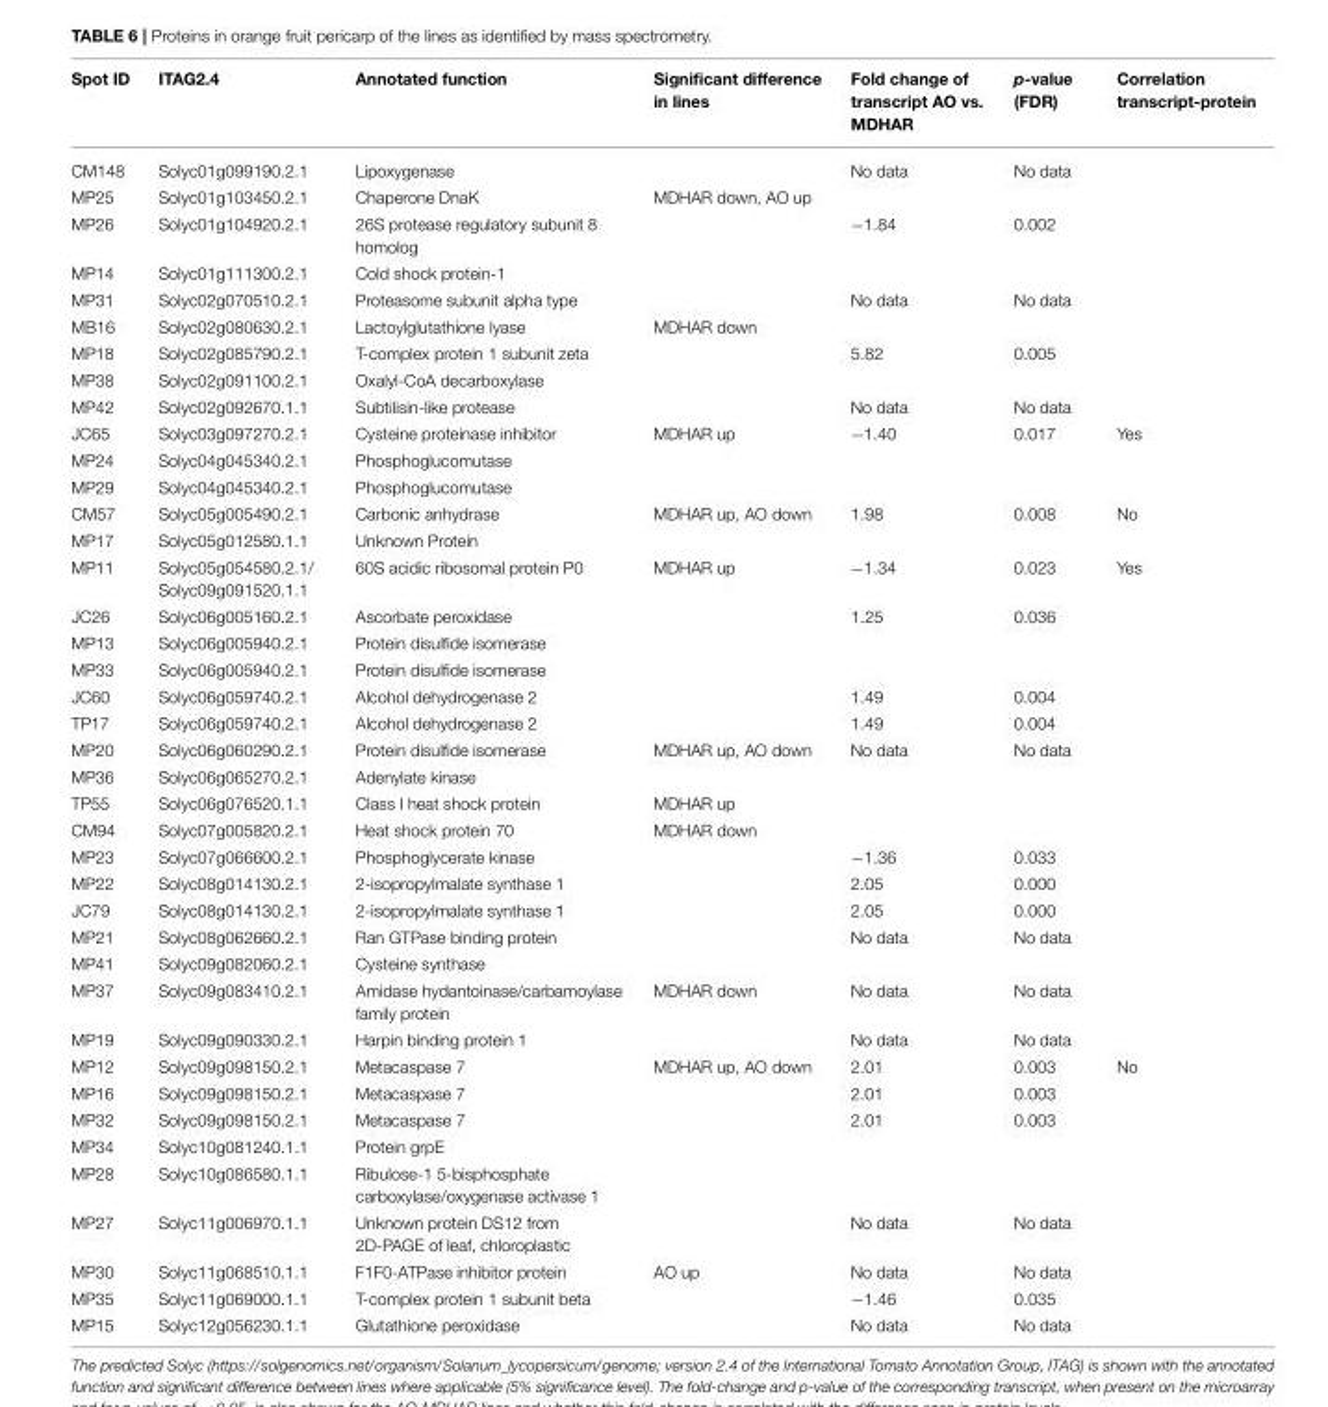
<table><thead><tr><td>Spot ID</td><td>ITAG2.4</td><td>Annotated function</td><td>Significant difference in lines</td><td>Fold change of transcript AO vs. MDHAR</td><td>p-value (FDR)</td><td>Correlation transcript-protein</td></tr></thead><tbody><tr><td>CM148</td><td>Solyc01g099190.2.1</td><td>Lipoxygenase</td><td></td><td>No data</td><td>No data</td><td></td></tr><tr><td>MP25</td><td>Solyc01g103450.2.1</td><td>Chaperone DnaK</td><td>MDHAR down, AO up</td><td></td><td></td><td></td></tr><tr><td>MP26</td><td>Solyc01g104920.2.1</td><td>26S protease regulatory subunit 8 homolog</td><td></td><td>−1.84</td><td>0.002</td><td></td></tr><tr><td>MP14</td><td>Solyc01g111300.2.1</td><td>Cold shock protein-1</td><td></td><td></td><td></td><td></td></tr><tr><td>MP31</td><td>Solyc02g070510.2.1</td><td>Proteasome subunit alpha type</td><td></td><td>No data</td><td>No data</td><td></td></tr><tr><td>MB16</td><td>Solyc02g080630.2.1</td><td>Lactoylglutathione lyase</td><td>MDHAR down</td><td></td><td></td><td></td></tr><tr><td>MP18</td><td>Solyc02g085790.2.1</td><td>T-complex protein 1 subunit zeta</td><td></td><td>5.82</td><td>0.005</td><td></td></tr><tr><td>MP38</td><td>Solyc02g091100.2.1</td><td>Oxalyl-CoA decarboxylase</td><td></td><td></td><td></td><td></td></tr><tr><td>MP42</td><td>Solyc02g092670.1.1</td><td>Subtilisin-like protease</td><td></td><td>No data</td><td>No data</td><td></td></tr><tr><td>JC65</td><td>Solyc03g097270.2.1</td><td>Cysteine proteinase inhibitor</td><td>MDHAR up</td><td>−1.40</td><td>0.017</td><td>Yes</td></tr><tr><td>MP24</td><td>Solyc04g045340.2.1</td><td>Phosphoglucomutase</td><td></td><td></td><td></td><td></td></tr><tr><td>MP29</td><td>Solyc04g045340.2.1</td><td>Phosphoglucomutase</td><td></td><td></td><td></td><td></td></tr><tr><td>CM57</td><td>Solyc05g005490.2.1</td><td>Carbonic anhydrase</td><td>MDHAR up, AO down</td><td>1.98</td><td>0.008</td><td>No</td></tr><tr><td>MP17</td><td>Solyc05g012580.1.1</td><td>Unknown Protein</td><td></td><td></td><td></td><td></td></tr><tr><td>MP11</td><td>Solyc05g054580.2.1/ Solyc09g091520.1.1</td><td>60S acidic ribosomal protein P0</td><td>MDHAR up</td><td>−1.34</td><td>0.023</td><td>Yes</td></tr><tr><td>JC26</td><td>Solyc06g005160.2.1</td><td>Ascorbate peroxidase</td><td></td><td>1.25</td><td>0.036</td><td></td></tr><tr><td>MP13</td><td>Solyc06g005940.2.1</td><td>Protein disulfide isomerase</td><td></td><td></td><td></td><td></td></tr><tr><td>MP33</td><td>Solyc06g005940.2.1</td><td>Protein disulfide isomerase</td><td></td><td></td><td></td><td></td></tr><tr><td>JC60</td><td>Solyc06g059740.2.1</td><td>Alcohol dehydrogenase 2</td><td></td><td>1.49</td><td>0.004</td><td></td></tr><tr><td>TP17</td><td>Solyc06g059740.2.1</td><td>Alcohol dehydrogenase 2</td><td></td><td>1.49</td><td>0.004</td><td></td></tr><tr><td>MP20</td><td>Solyc06g060290.2.1</td><td>Protein disulfide isomerase</td><td>MDHAR up, AO down</td><td>No data</td><td>No data</td><td></td></tr><tr><td>MP36</td><td>Solyc06g065270.2.1</td><td>Adenylate kinase</td><td></td><td></td><td></td><td></td></tr><tr><td>TP55</td><td>Solyc06g076520.1.1</td><td>Class I heat shock protein</td><td>MDHAR up</td><td></td><td></td><td></td></tr><tr><td>CM94</td><td>Solyc07g005820.2.1</td><td>Heat shock protein 70</td><td>MDHAR down</td><td></td><td></td><td></td></tr><tr><td>MP23</td><td>Solyc07g066600.2.1</td><td>Phosphoglycerate kinase</td><td></td><td>−1.36</td><td>0.033</td><td></td></tr><tr><td>MP22</td><td>Solyc08g014130.2.1</td><td>2-isopropylmalate synthase 1</td><td></td><td>2.05</td><td>0.000</td><td></td></tr><tr><td>JC79</td><td>Solyc08g014130.2.1</td><td>2-isopropylmalate synthase 1</td><td></td><td>2.05</td><td>0.000</td><td></td></tr><tr><td>MP21</td><td>Solyc08g062660.2.1</td><td>Ran GTPase binding protein</td><td></td><td>No data</td><td>No data</td><td></td></tr><tr><td>MP41</td><td>Solyc09g082060.2.1</td><td>Cysteine synthase</td><td></td><td></td><td></td><td></td></tr><tr><td>MP37</td><td>Solyc09g083410.2.1</td><td>Amidase hydantoinase/carbamoylase family protein</td><td>MDHAR down</td><td>No data</td><td>No data</td><td></td></tr><tr><td>MP19</td><td>Solyc09g090330.2.1</td><td>Harpin binding protein 1</td><td></td><td>No data</td><td>No data</td><td></td></tr><tr><td>MP12</td><td>Solyc09g098150.2.1</td><td>Metacaspase 7</td><td>MDHAR up, AO down</td><td>2.01</td><td>0.003</td><td>No</td></tr><tr><td>MP16</td><td>Solyc09g098150.2.1</td><td>Metacaspase 7</td><td></td><td>2.01</td><td>0.003</td><td></td></tr><tr><td>MP32</td><td>Solyc09g098150.2.1</td><td>Metacaspase 7</td><td></td><td>2.01</td><td>0.003</td><td></td></tr><tr><td>MP34</td><td>Solyc10g081240.1.1</td><td>Protein grpE</td><td></td><td></td><td></td><td></td></tr><tr><td>MP28</td><td>Solyc10g086580.1.1</td><td>Ribulose-1 5-bisphosphate carboxylase/oxygenase activase 1</td><td></td><td></td><td></td><td></td></tr><tr><td>MP27</td><td>Solyc11g006970.1.1</td><td>Unknown protein DS12 from 2D-PAGE of leaf, chloroplastic</td><td></td><td>No data</td><td>No data</td><td></td></tr><tr><td>MP30</td><td>Solyc11g068510.1.1</td><td>F1F0-ATPase inhibitor protein</td><td>AO up</td><td>No data</td><td>No data</td><td></td></tr><tr><td>MP35</td><td>Solyc11g069000.1.1</td><td>T-complex protein 1 subunit beta</td><td></td><td>−1.46</td><td>0.035</td><td></td></tr><tr><td>MP15</td><td>Solyc12g056230.1.1</td><td>Glutathione peroxidase</td><td></td><td>No data</td><td>No data</td><td></td></tr></tbody></table>